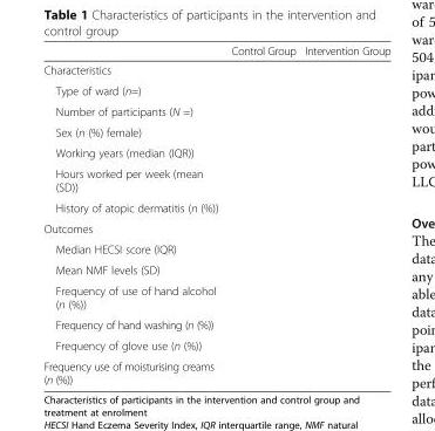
<table><thead><tr><td></td><td>Control Group</td><td>Intervention Group</td></tr></thead><tbody><tr><td colspan="3">Characteristics</td></tr><tr><td colspan="3">Type of ward (n=)</td></tr><tr><td colspan="3">Number of participants (N =)</td></tr><tr><td colspan="3">Sex (n (%) female)</td></tr><tr><td colspan="3">Working years (median (IQR))</td></tr><tr><td colspan="3">Hours worked per week (mean (SD))</td></tr><tr><td colspan="3">History of atopic dermatitis (n (%))</td></tr><tr><td colspan="3">Outcomes</td></tr><tr><td colspan="3">Median HECSI score (IQR)</td></tr><tr><td colspan="3">Mean NMF levels (SD)</td></tr><tr><td colspan="3">Frequency of use of hand alcohol (n (%))</td></tr><tr><td colspan="3">Frequency of hand washing (n (%))</td></tr><tr><td colspan="3">Frequency of glove use (n (%))</td></tr><tr><td>Frequency use of moisturising creams (n (%))</td><td></td><td></td></tr></tbody></table>